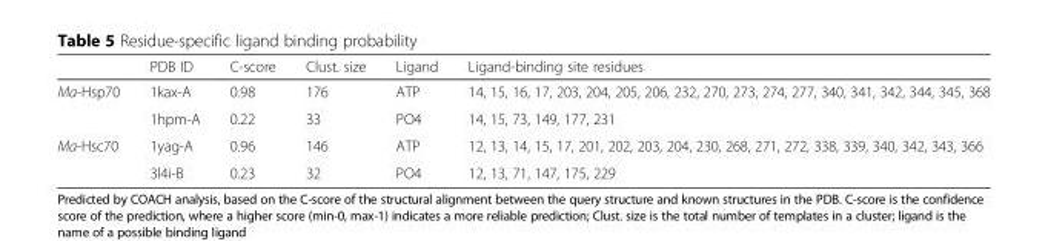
<table><thead><tr><td></td><td>PDB ID</td><td>C-score</td><td>Clust. size</td><td>Ligand</td><td>Ligand-binding site residues</td></tr></thead><tbody><tr><td rowspan="2">Ma-Hsp70</td><td>1kax-A</td><td>0.98</td><td>176</td><td>ATP</td><td>14, 15, 16, 17, 203, 204, 205, 206, 232, 270, 273, 274, 277, 340, 341, 342, 344, 345, 368</td></tr><tr><td>1hpm-A</td><td>0.22</td><td>33</td><td>PO4</td><td>14, 15, 73, 149, 177, 231</td></tr><tr><td rowspan="2">Ma-Hsc70</td><td>1yag-A</td><td>0.96</td><td>146</td><td>ATP</td><td>12, 13, 14, 15, 17, 201, 202, 203, 204, 230, 268, 271, 272, 338, 339, 340, 342, 343, 366</td></tr><tr><td>3l4i-B</td><td>0.23</td><td>32</td><td>PO4</td><td>12, 13, 71, 147, 175, 229</td></tr></tbody></table>